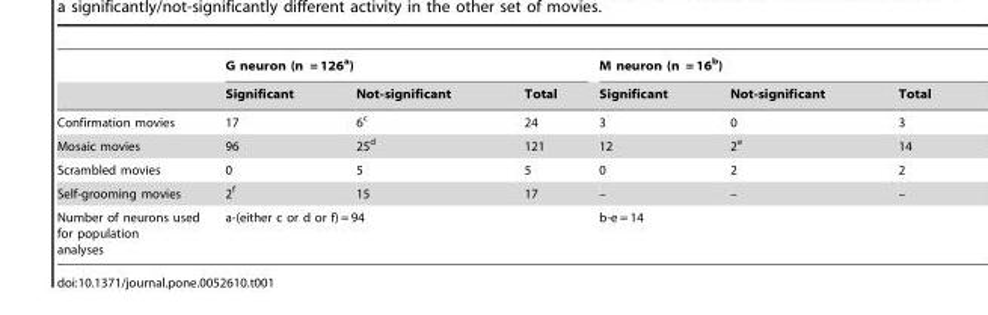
<table><thead><tr><td rowspan="2"></td><td colspan="3">G neuron (n = 126<sup>a</sup>)</td><td colspan="3">M neuron (n = 16<sup>b</sup>)</td></tr><tr><td>Significant</td><td>Not-significant</td><td>Total</td><td>Significant</td><td>Not-significant</td><td>Total</td></tr></thead><tbody><tr><td>Confirmation movies</td><td>17</td><td>6<sup>c</sup></td><td>24</td><td>3</td><td>0</td><td>3</td></tr><tr><td>Mosaic movies</td><td>96</td><td>25<sup>d</sup></td><td>121</td><td>12</td><td>2<sup>e</sup></td><td>14</td></tr><tr><td>Scrambled movies</td><td>0</td><td>5</td><td>5</td><td>0</td><td>2</td><td>2</td></tr><tr><td>Self-grooming movies</td><td>2<sup>f</sup></td><td>15</td><td>17</td><td>–</td><td>–</td><td>–</td></tr><tr><td>Number of neurons used for population analyses</td><td colspan="3">a-(either c or d or f) = 94</td><td colspan="3">b-e = 14</td></tr></tbody></table>